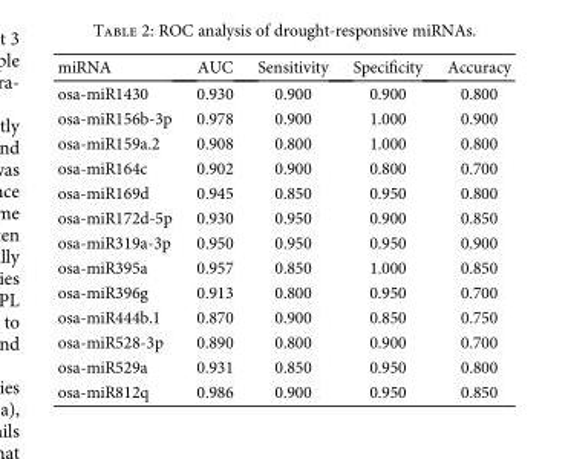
<table><thead><tr><td>miRNA</td><td>AUC</td><td>Sensitivity</td><td>Specificity</td><td>Accuracy</td></tr></thead><tbody><tr><td>osa-miR1430</td><td>0.930</td><td>0.900</td><td>0.900</td><td>0.800</td></tr><tr><td>osa-miR156b-3p</td><td>0.978</td><td>0.900</td><td>1.000</td><td>0.900</td></tr><tr><td>osa-miR159a.2</td><td>0.908</td><td>0.800</td><td>1.000</td><td>0.800</td></tr><tr><td>osa-miR164c</td><td>0.902</td><td>0.900</td><td>0.800</td><td>0.700</td></tr><tr><td>osa-miR169d</td><td>0.945</td><td>0.850</td><td>0.950</td><td>0.800</td></tr><tr><td>osa-miR172d-5p</td><td>0.930</td><td>0.950</td><td>0.900</td><td>0.850</td></tr><tr><td>osa-miR319a-3p</td><td>0.950</td><td>0.950</td><td>0.950</td><td>0.900</td></tr><tr><td>osa-miR395a</td><td>0.957</td><td>0.850</td><td>1.000</td><td>0.850</td></tr><tr><td>osa-miR396g</td><td>0.913</td><td>0.800</td><td>0.950</td><td>0.700</td></tr><tr><td>osa-miR444b.1</td><td>0.870</td><td>0.900</td><td>0.850</td><td>0.750</td></tr><tr><td>osa-miR528-3p</td><td>0.890</td><td>0.800</td><td>0.900</td><td>0.700</td></tr><tr><td>osa-miR529a</td><td>0.931</td><td>0.850</td><td>0.950</td><td>0.800</td></tr><tr><td>osa-miR812q</td><td>0.986</td><td>0.900</td><td>0.950</td><td>0.850</td></tr></tbody></table>